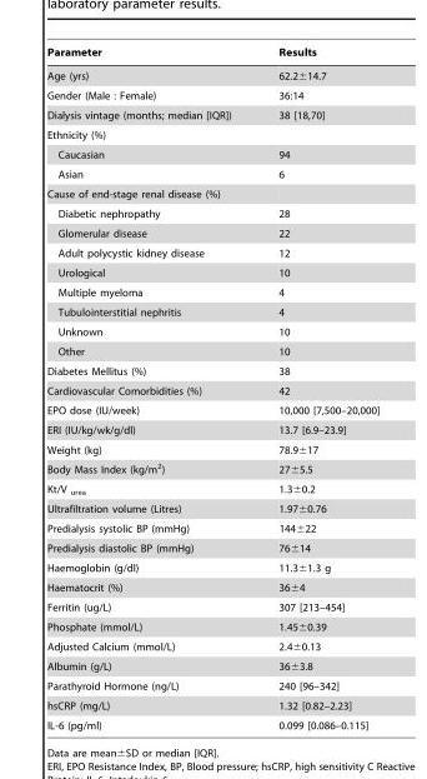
<table><thead><tr><td>Parameter</td><td>Results</td></tr></thead><tbody><tr><td>Age (yrs)</td><td>62.2±14.7</td></tr><tr><td>Gender (Male : Female)</td><td>36:14</td></tr><tr><td>Dialysis vintage (months; median [IQR])</td><td>38 [18,70]</td></tr><tr><td colspan="2">Ethnicity (%)</td></tr><tr><td>Caucasian</td><td>94</td></tr><tr><td>Asian</td><td>6</td></tr><tr><td colspan="2">Cause of end-stage renal disease (%)</td></tr><tr><td>Diabetic nephropathy</td><td>28</td></tr><tr><td>Glomerular disease</td><td>22</td></tr><tr><td>Adult polycystic kidney disease</td><td>12</td></tr><tr><td>Urological</td><td>10</td></tr><tr><td>Multiple myeloma</td><td>4</td></tr><tr><td>Tubulointerstitial nephritis</td><td>4</td></tr><tr><td>Unknown</td><td>10</td></tr><tr><td>Other</td><td>10</td></tr><tr><td>Diabetes Mellitus (%)</td><td>38</td></tr><tr><td>Cardiovascular Comorbidities (%)</td><td>42</td></tr><tr><td>EPO dose (IU/week)</td><td>10,000 [7,500–20,000]</td></tr><tr><td>ERI (IU/kg/wk/g/dl)</td><td>13.7 [6.9–23.9]</td></tr><tr><td>Weight (kg)</td><td>78.9±17</td></tr><tr><td>Body Mass Index (kg/m<sup>2</sup>)</td><td>27±5.5</td></tr><tr><td>Kt/V <sub>urea</sub></td><td>1.3±0.2</td></tr><tr><td>Ultrafiltration volume (Litres)</td><td>1.97±0.76</td></tr><tr><td>Predialysis systolic BP (mmHg)</td><td>144±22</td></tr><tr><td>Predialysis diastolic BP (mmHg)</td><td>76±14</td></tr><tr><td>Haemoglobin (g/dl)</td><td>11.3±1.3 g</td></tr><tr><td>Haematocrit (%)</td><td>36±4</td></tr><tr><td>Ferritin (ug/L)</td><td>307 [213–454]</td></tr><tr><td>Phosphate (mmol/L)</td><td>1.45±0.39</td></tr><tr><td>Adjusted Calcium (mmol/L)</td><td>2.4±0.13</td></tr><tr><td>Albumin (g/L)</td><td>36±3.8</td></tr><tr><td>Parathyroid Hormone (ng/L)</td><td>240 [96–342]</td></tr><tr><td>hsCRP (mg/L)</td><td>1.32 [0.82–2.23]</td></tr><tr><td>IL-6 (pg/ml)</td><td>0.099 [0.086–0.115]</td></tr></tbody></table>